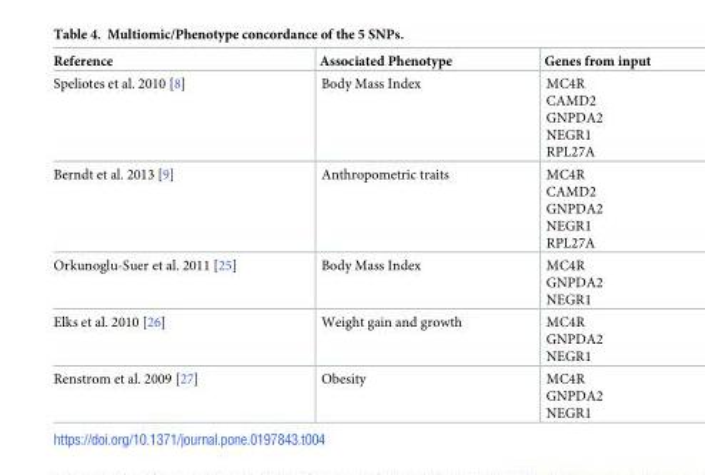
<table><thead><tr><td>Reference</td><td>Associated Phenotype</td><td>Genes from input</td></tr></thead><tbody><tr><td>Speliotes et al. 2010 [8]</td><td>Body Mass Index</td><td>MC4R CAMD2 GNPDA2 NEGR1 RPL27A</td></tr><tr><td>Berndt et al. 2013 [9]</td><td>Anthropometric traits</td><td>MC4R CAMD2 GNPDA2 NEGR1 RPL27A</td></tr><tr><td>Orkunoglu-Suer et al. 2011 [25]</td><td>Body Mass Index</td><td>MC4R GNPDA2 NEGR1</td></tr><tr><td>Elks et al. 2010 [26]</td><td>Weight gain and growth</td><td>MC4R GNPDA2 NEGR1</td></tr><tr><td>Renstrom et al. 2009 [27]</td><td>Obesity</td><td>MC4R GNPDA2 NEGR1</td></tr></tbody></table>